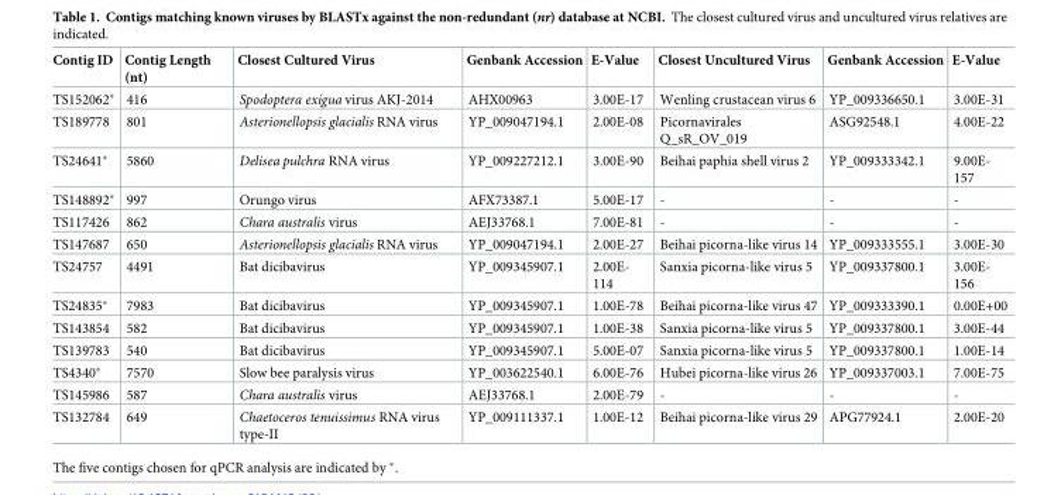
<table><thead><tr><td>Contig ID</td><td>Contig Length (nt)</td><td>Closest Cultured Virus</td><td>Genbank Accession</td><td>E-Value</td><td>Closest Uncultured Virus</td><td>Genbank Accession</td><td>E-Value</td></tr></thead><tbody><tr><td>TS152062*</td><td>416</td><td>Spodoptera exigua virus AKJ-2014</td><td>AHX00963</td><td>3.00E-17</td><td>Wenling crustacean virus 6</td><td>YP_009336650.1</td><td>3.00E-31</td></tr><tr><td>TS189778</td><td>801</td><td>Asterionellopsis glacialis RNA virus</td><td>YP_009047194.1</td><td>2.00E-08</td><td>Picornavirales Q_sR_OV_019</td><td>ASG92548.1</td><td>4.00E-22</td></tr><tr><td>TS24641*</td><td>5860</td><td>Delisea pulchra RNA virus</td><td>YP_009227212.1</td><td>3.00E-90</td><td>Beihai paphia shell virus 2</td><td>YP_009333342.1</td><td>9.00E- 157</td></tr><tr><td>TS148892*</td><td>997</td><td>Orungo virus</td><td>AFX73387.1</td><td>5.00E-17</td><td>-</td><td>-</td><td>-</td></tr><tr><td>TS117426</td><td>862</td><td>Chara australis virus</td><td>AEJ33768.1</td><td>7.00E-81</td><td>-</td><td>-</td><td>-</td></tr><tr><td>TS147687</td><td>650</td><td>Asterionellopsis glacialis RNA virus</td><td>YP_009047194.1</td><td>2.00E-27</td><td>Beihai picorna-like virus 14</td><td>YP_009333555.1</td><td>3.00E-30</td></tr><tr><td>TS24757</td><td>4491</td><td>Bat dicibavirus</td><td>YP_009345907.1</td><td>2.00E- 114</td><td>Sanxia picorna-like virus 5</td><td>YP_009337800.1</td><td>3.00E- 156</td></tr><tr><td>TS24835*</td><td>7983</td><td>Bat dicibavirus</td><td>YP_009345907.1</td><td>1.00E-78</td><td>Beihai picorna-like virus 47</td><td>YP_009333390.1</td><td>0.00E+00</td></tr><tr><td>TS143854</td><td>582</td><td>Bat dicibavirus</td><td>YP_009345907.1</td><td>1.00E-38</td><td>Sanxia picorna-like virus 5</td><td>YP_009337800.1</td><td>3.00E-44</td></tr><tr><td>TS139783</td><td>540</td><td>Bat dicibavirus</td><td>YP_009345907.1</td><td>5.00E-07</td><td>Sanxia picorna-like virus 5</td><td>YP_009337800.1</td><td>1.00E-14</td></tr><tr><td>TS4340*</td><td>7570</td><td>Slow bee paralysis virus</td><td>YP_003622540.1</td><td>6.00E-76</td><td>Hubei picorna-like virus 26</td><td>YP_009337003.1</td><td>7.00E-75</td></tr><tr><td>TS145986</td><td>587</td><td>Chara australis virus</td><td>AEJ33768.1</td><td>2.00E-79</td><td>-</td><td>-</td><td>-</td></tr><tr><td>TS132784</td><td>649</td><td>Chaetoceros tenuissimus RNA virus type-II</td><td>YP_009111337.1</td><td>1.00E-12</td><td>Beihai picorna-like virus 29</td><td>APG77924.1</td><td>2.00E-20</td></tr></tbody></table>